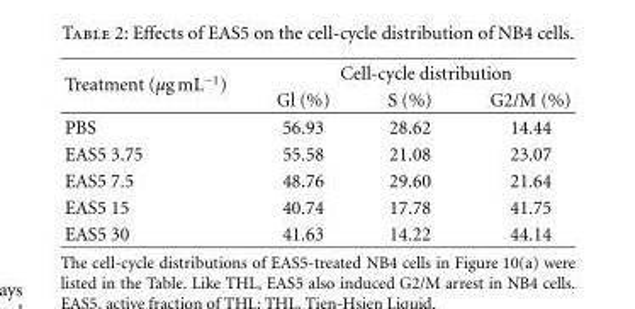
<table><thead><tr><td rowspan="2">Treatment (μg mL<sup>−1</sup>)</td><td colspan="3">Cell-cycle distribution</td></tr><tr><td>Gl (%)</td><td>S (%)</td><td>G2/M (%)</td></tr></thead><tbody><tr><td>PBS</td><td>56.93</td><td>28.62</td><td>14.44</td></tr><tr><td>EAS5 3.75</td><td>55.58</td><td>21.08</td><td>23.07</td></tr><tr><td>EAS5 7.5</td><td>48.76</td><td>29.60</td><td>21.64</td></tr><tr><td>EAS5 15</td><td>40.74</td><td>17.78</td><td>41.75</td></tr><tr><td>EAS5 30</td><td>41.63</td><td>14.22</td><td>44.14</td></tr></tbody></table>